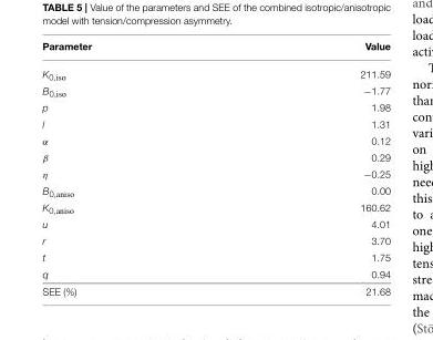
<table><thead><tr><td>Parameter</td><td>Value</td></tr></thead><tbody><tr><td>K<sub>0,iso</sub></td><td>211.59</td></tr><tr><td>B<sub>0,iso</sub></td><td>−1.77</td></tr><tr><td>p</td><td>1.98</td></tr><tr><td>l</td><td>1.31</td></tr><tr><td>α</td><td>0.12</td></tr><tr><td>β</td><td>0.29</td></tr><tr><td>η</td><td>−0.25</td></tr><tr><td>B<sub>0,aniso</sub></td><td>0.00</td></tr><tr><td>K<sub>0,aniso</sub></td><td>160.62</td></tr><tr><td>u</td><td>4.01</td></tr><tr><td>r</td><td>3.70</td></tr><tr><td>t</td><td>1.75</td></tr><tr><td>q</td><td>0.94</td></tr><tr><td>SEE (%)</td><td>21.68</td></tr></tbody></table>